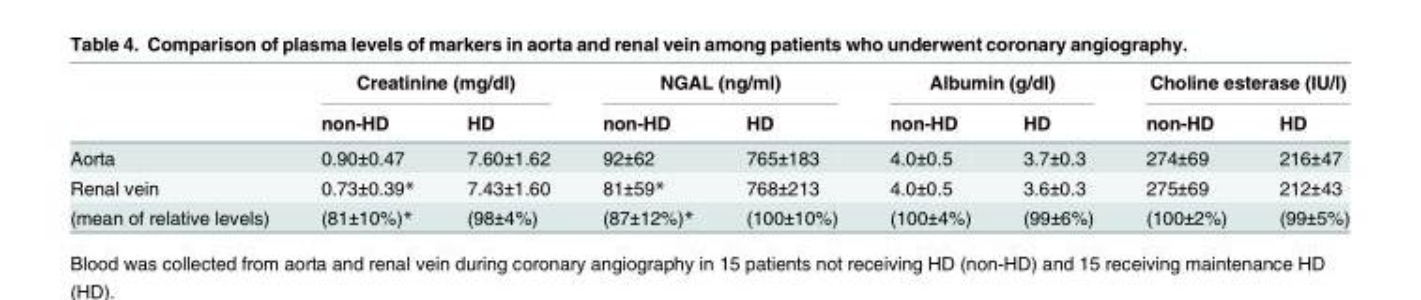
<table><thead><tr><td rowspan="2"></td><td colspan="2">Creatinine (mg/dl)</td><td colspan="2">NGAL (ng/ml)</td><td colspan="2">Albumin (g/dl)</td><td colspan="2">Choline esterase (IU/l)</td></tr><tr><td>non-HD</td><td>HD</td><td>non-HD</td><td>HD</td><td>non-HD</td><td>HD</td><td>non-HD</td><td>HD</td></tr></thead><tbody><tr><td>Aorta</td><td>0.90±0.47</td><td>7.60±1.62</td><td>92±62</td><td>765±183</td><td>4.0±0.5</td><td>3.7±0.3</td><td>274±69</td><td>216±47</td></tr><tr><td>Renal vein</td><td>0.73±0.39*</td><td>7.43±1.60</td><td>81±59*</td><td>768±213</td><td>4.0±0.5</td><td>3.6±0.3</td><td>275±69</td><td>212±43</td></tr><tr><td>(mean of relative levels)</td><td>(81±10%)*</td><td>(98±4%)</td><td>(87±12%)*</td><td>(100±10%)</td><td>(100±4%)</td><td>(99±6%)</td><td>(100±2%)</td><td>(99±5%)</td></tr></tbody></table>